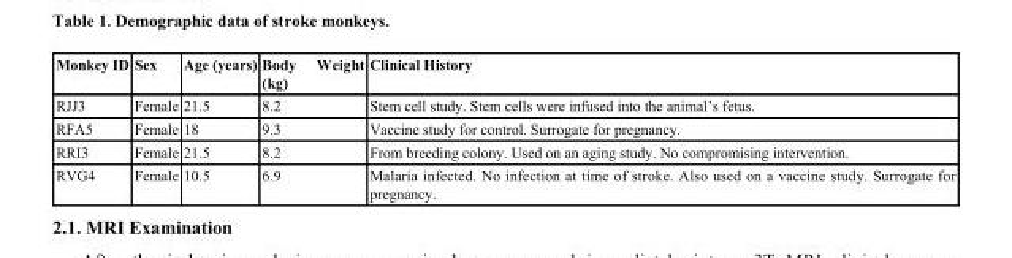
<table><tbody><tr><td>Monkey ID</td><td>Sex</td><td>Age (years)</td><td>Body Weight (kg)</td><td>Clinical History</td></tr><tr><td>RJJ3</td><td>Female</td><td>21.5</td><td>8.2</td><td>Stem cell study. Stem cells were infused into the animal’s fetus.</td></tr><tr><td>RFA5</td><td>Female</td><td>18</td><td>9.3</td><td>Vaccine study for control. Surrogate for pregnancy.</td></tr><tr><td>RRI3</td><td>Female</td><td>21.5</td><td>8.2</td><td>From breeding colony. Used on an aging study. No compromising intervention.</td></tr><tr><td>RVG4</td><td>Female</td><td>10.5</td><td>6.9</td><td>Malaria infected. No infection at time of stroke. Also used on a vaccine study. Surrogate for pregnancy.</td></tr></tbody></table>